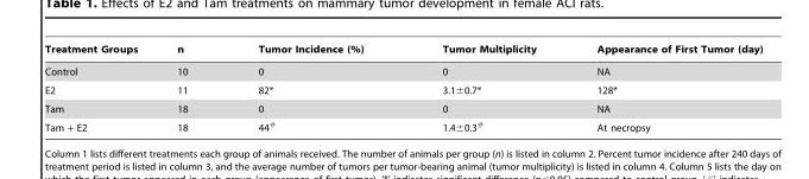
<table><thead><tr><td>Treatment Groups</td><td>n</td><td>Tumor Incidence (%)</td><td>Tumor Multiplicity</td><td>Appearance of First Tumor (day)</td></tr></thead><tbody><tr><td>Control</td><td>10</td><td>0</td><td>0</td><td>NA</td></tr><tr><td>E2</td><td>11</td><td>82*</td><td>3.1±0.7*</td><td>128*</td></tr><tr><td>Tam</td><td>18</td><td>0</td><td>0</td><td>NA</td></tr><tr><td>Tam + E2</td><td>18</td><td>44<sup>#</sup></td><td>1.4±0.3<sup>#</sup></td><td>At necropsy</td></tr></tbody></table>